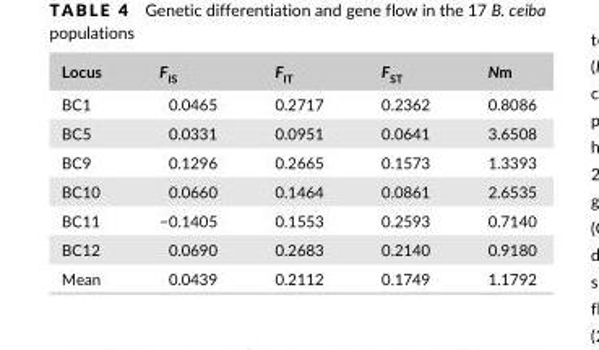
<table><thead><tr><td>Locus</td><td>F<sub>IS</sub></td><td>F<sub>IT</sub></td><td>F<sub>ST</sub></td><td>Nm</td></tr></thead><tbody><tr><td>BC1</td><td>0.0465</td><td>0.2717</td><td>0.2362</td><td>0.8086</td></tr><tr><td>BC5</td><td>0.0331</td><td>0.0951</td><td>0.0641</td><td>3.6508</td></tr><tr><td>BC9</td><td>0.1296</td><td>0.2665</td><td>0.1573</td><td>1.3393</td></tr><tr><td>BC10</td><td>0.0660</td><td>0.1464</td><td>0.0861</td><td>2.6535</td></tr><tr><td>BC11</td><td>−0.1405</td><td>0.1553</td><td>0.2593</td><td>0.7140</td></tr><tr><td>BC12</td><td>0.0690</td><td>0.2683</td><td>0.2140</td><td>0.9180</td></tr><tr><td>Mean</td><td>0.0439</td><td>0.2112</td><td>0.1749</td><td>1.1792</td></tr></tbody></table>